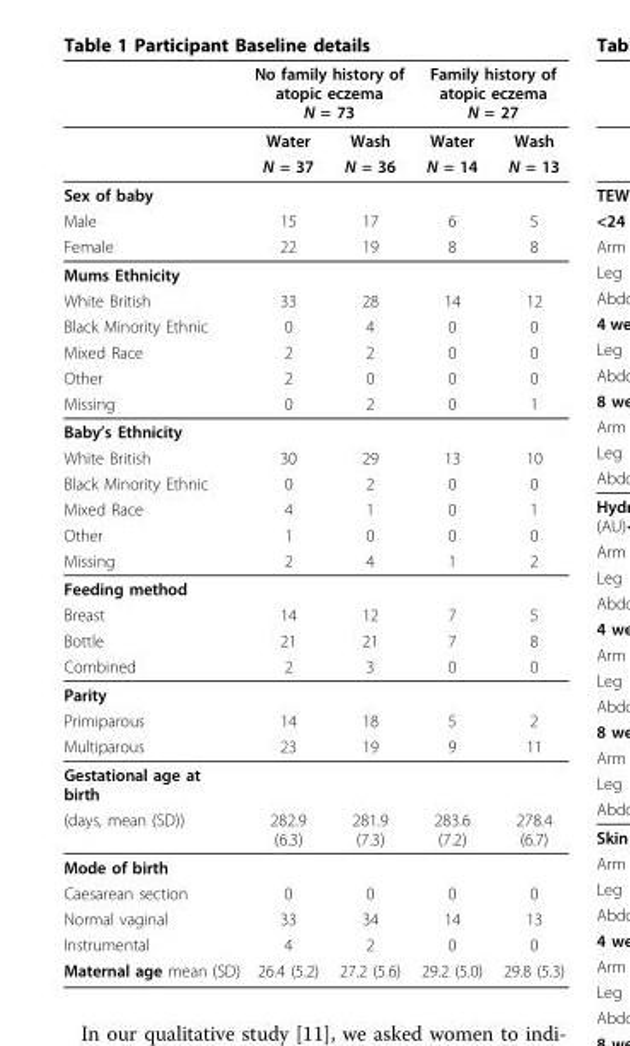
<table><thead><tr><td rowspan="2"></td><td colspan="2">No family history of atopic eczema N = 73</td><td colspan="2">Family history of atopic eczema N = 27</td></tr><tr><td>Water</td><td>Wash</td><td>Water</td><td>Wash</td></tr></thead><tbody><tr><td></td><td>N = 37</td><td>N = 36</td><td>N = 14</td><td>N = 13</td></tr><tr><td colspan="5">Sex of baby</td></tr><tr><td>Male</td><td>15</td><td>17</td><td>6</td><td>5</td></tr><tr><td>Female</td><td>22</td><td>19</td><td>8</td><td>8</td></tr><tr><td colspan="5">Mums Ethnicity</td></tr><tr><td>White British</td><td>33</td><td>28</td><td>14</td><td>12</td></tr><tr><td>Black Minority Ethnic</td><td>0</td><td>4</td><td>0</td><td>0</td></tr><tr><td>Mixed Race</td><td>2</td><td>2</td><td>0</td><td>0</td></tr><tr><td>Other</td><td>2</td><td>0</td><td>0</td><td>0</td></tr><tr><td>Missing</td><td>0</td><td>2</td><td>0</td><td>1</td></tr><tr><td colspan="5">Baby’s Ethnicity</td></tr><tr><td>White British</td><td>30</td><td>29</td><td>13</td><td>10</td></tr><tr><td>Black Minority Ethnic</td><td>0</td><td>2</td><td>0</td><td>0</td></tr><tr><td>Mixed Race</td><td>4</td><td>1</td><td>0</td><td>1</td></tr><tr><td>Other</td><td>1</td><td>0</td><td>0</td><td>0</td></tr><tr><td>Missing</td><td>2</td><td>4</td><td>1</td><td>2</td></tr><tr><td colspan="5">Feeding method</td></tr><tr><td>Breast</td><td>14</td><td>12</td><td>7</td><td>5</td></tr><tr><td>Bottle</td><td>21</td><td>21</td><td>7</td><td>8</td></tr><tr><td>Combined</td><td>2</td><td>3</td><td>0</td><td>0</td></tr><tr><td colspan="5">Parity</td></tr><tr><td>Primiparous</td><td>14</td><td>18</td><td>5</td><td>2</td></tr><tr><td>Multiparous</td><td>23</td><td>19</td><td>9</td><td>11</td></tr><tr><td colspan="5">Gestational age at birth</td></tr><tr><td>(days, mean (SD))</td><td>282.9 (6.3)</td><td>281.9 (7.3)</td><td>283.6 (7.2)</td><td>278.4 (6.7)</td></tr><tr><td colspan="5">Mode of birth</td></tr><tr><td>Caesarean section</td><td>0</td><td>0</td><td>0</td><td>0</td></tr><tr><td>Normal vaginal</td><td>33</td><td>34</td><td>14</td><td>13</td></tr><tr><td>Instrumental</td><td>4</td><td>2</td><td>0</td><td>0</td></tr><tr><td>Maternal age mean (SD)</td><td>26.4 (5.2)</td><td>27.2 (5.6)</td><td>29.2 (5.0)</td><td>29.8 (5.3)</td></tr></tbody></table>